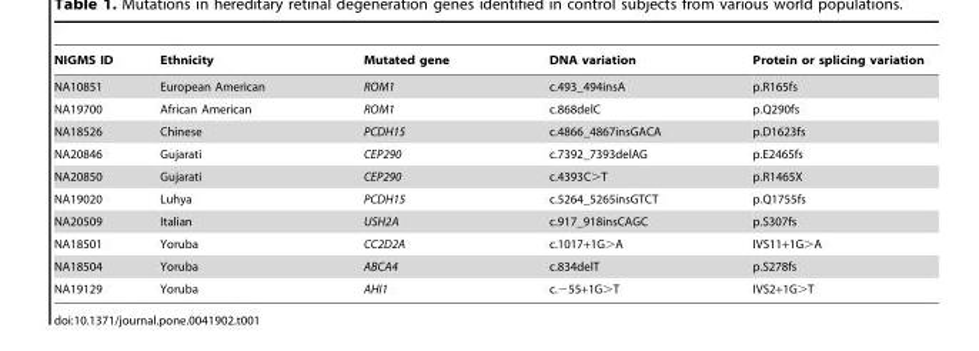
<table><thead><tr><td>NIGMS ID</td><td>Ethnicity</td><td>Mutated gene</td><td>DNA variation</td><td>Protein or splicing variation</td></tr></thead><tbody><tr><td>NA10851</td><td>European American</td><td>ROM1</td><td>c.493_494insA</td><td>p.R165fs</td></tr><tr><td>NA19700</td><td>African American</td><td>ROM1</td><td>c.868delC</td><td>p.Q290fs</td></tr><tr><td>NA18526</td><td>Chinese</td><td>PCDH15</td><td>c.4866_4867insGACA</td><td>p.D1623fs</td></tr><tr><td>NA20846</td><td>Gujarati</td><td>CEP290</td><td>c.7392_7393delAG</td><td>p.E2465fs</td></tr><tr><td>NA20850</td><td>Gujarati</td><td>CEP290</td><td>c.4393C&gt;T</td><td>p.R1465X</td></tr><tr><td>NA19020</td><td>Luhya</td><td>PCDH15</td><td>c.5264_5265insGTCT</td><td>p.Q1755fs</td></tr><tr><td>NA20509</td><td>Italian</td><td>USH2A</td><td>c.917_918insCAGC</td><td>p.S307fs</td></tr><tr><td>NA18501</td><td>Yoruba</td><td>CC2D2A</td><td>c.1017+1G&gt;A</td><td>IVS11+1G&gt;A</td></tr><tr><td>NA18504</td><td>Yoruba</td><td>ABCA4</td><td>c.834delT</td><td>p.S278fs</td></tr><tr><td>NA19129</td><td>Yoruba</td><td>AHI1</td><td>c.−55+1G&gt;T</td><td>IVS2+1G&gt;T</td></tr></tbody></table>